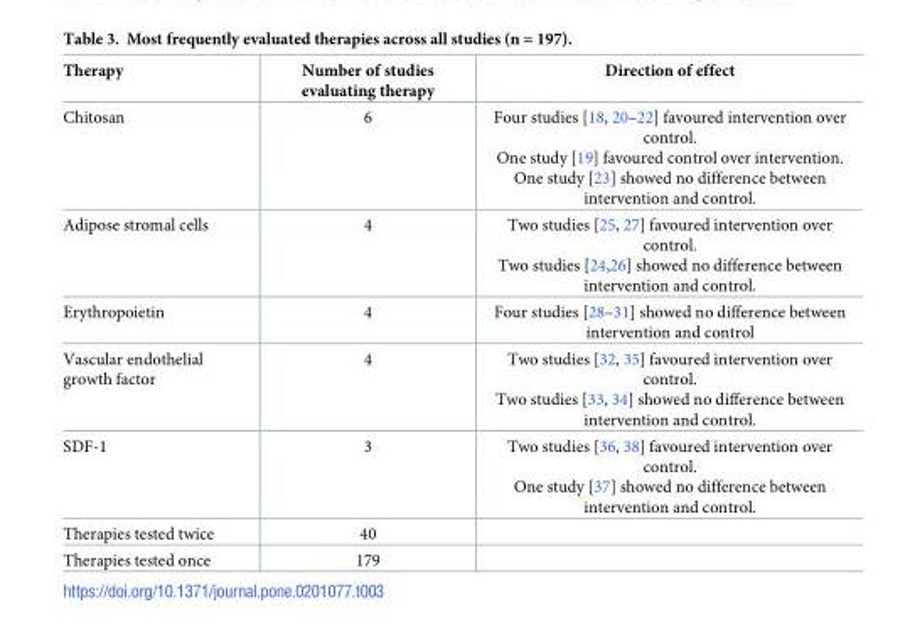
<table><thead><tr><td>Therapy</td><td>Number of studies evaluating therapy</td><td>Direction of effect</td></tr></thead><tbody><tr><td>Chitosan</td><td>6</td><td>Four studies [18, 20–22] favoured intervention over control. One study [19] favoured control over intervention. One study [23] showed no difference between intervention and control.</td></tr><tr><td>Adipose stromal cells</td><td>4</td><td>Two studies [25, 27] favoured intervention over control. Two studies [24,26] showed no difference between intervention and control.</td></tr><tr><td>Erythropoietin</td><td>4</td><td>Four studies [28–31] showed no difference between intervention and control</td></tr><tr><td>Vascular endothelial growth factor</td><td>4</td><td>Two studies [32, 35] favoured intervention over control. Two studies [33, 34] showed no difference between intervention and control.</td></tr><tr><td>SDF-1</td><td>3</td><td>Two studies [36, 38] favoured intervention over control. One study [37] showed no difference between intervention and control.</td></tr><tr><td>Therapies tested twice</td><td>40</td><td></td></tr><tr><td>Therapies tested once</td><td>179</td><td></td></tr></tbody></table>